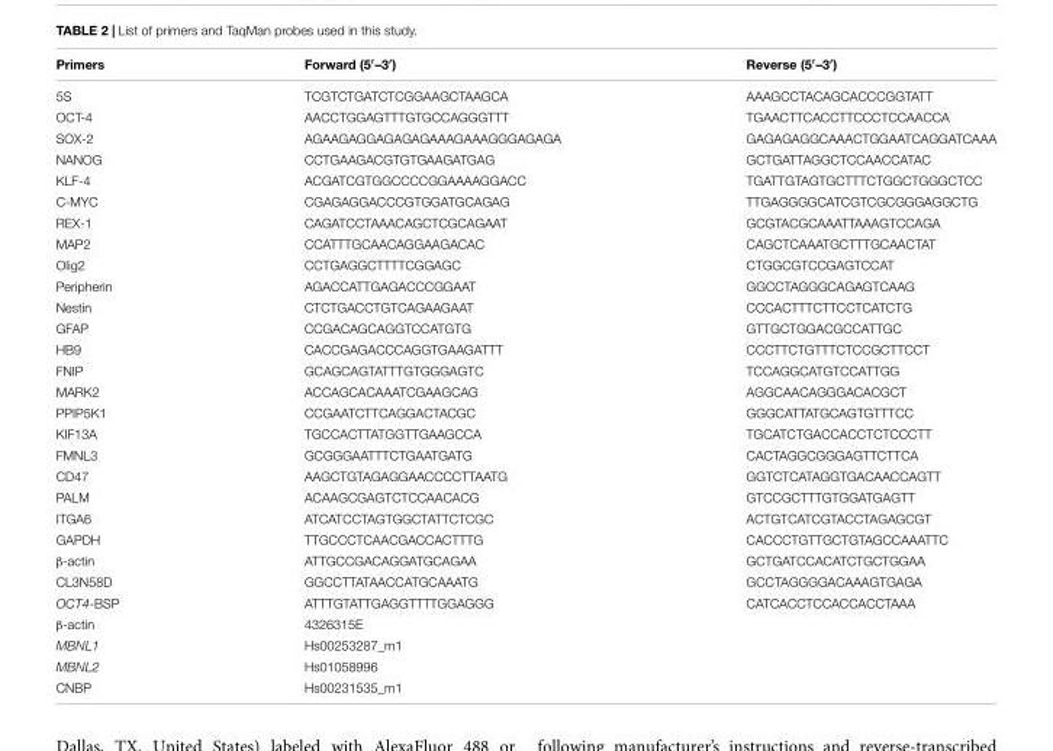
<table><thead><tr><td>Primers</td><td>Forward (5′–3′)</td><td>Reverse (5′–3′)</td></tr></thead><tbody><tr><td>5S</td><td>TCGTCTGATCTCGGAAGCTAAGCA</td><td>AAAGCCTACAGCACCCGGTATT</td></tr><tr><td>OCT-4</td><td>AACCTGGAGTTTGTGCCAGGGTTT</td><td>TGAACTTCACCTTCCCTCCAACCA</td></tr><tr><td>SOX-2</td><td>AGAAGAGGAGAGAGAAAGAAAGGGAGAGA</td><td>GAGAGAGGCAAACTGGAATCAGGATCAAA</td></tr><tr><td>NANOG</td><td>CCTGAAGACGTGTGAAGATGAG</td><td>GCTGATTAGGCTCCAACCATAC</td></tr><tr><td>KLF-4</td><td>ACGATCGTGGCCCCGGAAAAGGACC</td><td>TGATTGTAGTGCTTTCTGGCTGGGCTCC</td></tr><tr><td>C-MYC</td><td>CGAGAGGACCCGTGGATGCAGAG</td><td>TTGAGGGGCATCGTCGCGGGAGGCTG</td></tr><tr><td>REX-1</td><td>CAGATCCTAAACAGCTCGCAGAAT</td><td>GCGTACGCAAATTAAAGTCCAGA</td></tr><tr><td>MAP2</td><td>CCATTTGCAACAGGAAGACAC</td><td>CAGCTCAAATGCTTTGCAACTAT</td></tr><tr><td>Olig2</td><td>CCTGAGGCTTTTCGGAGC</td><td>CTGGCGTCCGAGTCCAT</td></tr><tr><td>Peripherin</td><td>AGACCATTGAGACCCGGAAT</td><td>GGCCTAGGGCAGAGTCAAG</td></tr><tr><td>Nestin</td><td>CTCTGACCTGTCAGAAGAAT</td><td>CCCACTTTCTTCCTCATCTG</td></tr><tr><td>GFAP</td><td>CCGACAGCAGGTCCATGTG</td><td>GTTGCTGGACGCCATTGC</td></tr><tr><td>HB9</td><td>CACCGAGACCCAGGTGAAGATTT</td><td>CCCTTCTGTTTCTCCGCTTCCT</td></tr><tr><td>FNIP</td><td>GCAGCAGTATTTGTGGGAGTC</td><td>TCCAGGCATGTCCATTGG</td></tr><tr><td>MARK2</td><td>ACCAGCACAAATCGAAGCAG</td><td>AGGCAACAGGGACACGCT</td></tr><tr><td>PPIP5K1</td><td>CCGAATCTTCAGGACTACGC</td><td>GGGCATTATGCAGTGTTTCC</td></tr><tr><td>KIF13A</td><td>TGCCACTTATGGTTGAAGCCA</td><td>TGCATCTGACCACCTCTCCCTT</td></tr><tr><td>FMNL3</td><td>GCGGGAATTTCTGAATGATG</td><td>CACTAGGCGGGAGTTCTTCA</td></tr><tr><td>CD47</td><td>AAGCTGTAGAGGAACCCCTTAATG</td><td>GGTCTCATAGGTGACAACCAGTT</td></tr><tr><td>PALM</td><td>ACAAGCGAGTCTCCAACACG</td><td>GTCCGCTTTGTGGATGAGTT</td></tr><tr><td>ITGA6</td><td>ATCATCCTAGTGGCTATTCTCGC</td><td>ACTGTCATCGTACCTAGAGCGT</td></tr><tr><td>GAPDH</td><td>TTGCCCTCAACGACCACTTTG</td><td>CACCCTGTTGCTGTAGCCAAATTC</td></tr><tr><td>β-actin</td><td>ATTGCCGACAGGATGCAGAA</td><td>GCTGATCCACATCTGCTGGAA</td></tr><tr><td>CL3N58D</td><td>GGCCTTATAACCATGCAAATG</td><td>GCCTAGGGGACAAAGTGAGA</td></tr><tr><td>OCT4-BSP</td><td>ATTTGTATTGAGGTTTTGGAGGG</td><td>CATCACCTCCACCACCTAAA</td></tr><tr><td>β-actin</td><td>4326315E</td><td></td></tr><tr><td>MBNL1</td><td>Hs00253287_m1</td><td></td></tr><tr><td>MBNL2</td><td>Hs01058996</td><td></td></tr><tr><td>CNBP</td><td>Hs00231535_m1</td><td></td></tr></tbody></table>